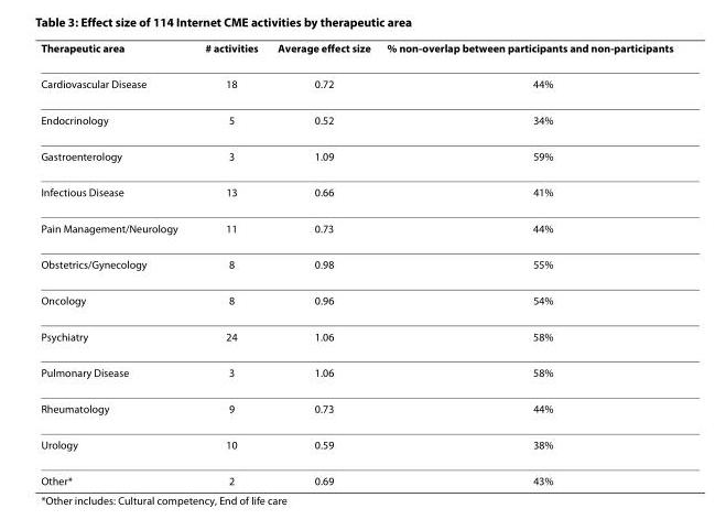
<table><thead><tr><td>Therapeutic area</td><td># activities</td><td>Average effect size</td><td>% non-overlap between participants and non-participants</td></tr></thead><tbody><tr><td>Cardiovascular Disease</td><td>18</td><td>0.72</td><td>44%</td></tr><tr><td>Endocrinology</td><td>5</td><td>0.52</td><td>34%</td></tr><tr><td>Gastroenterology</td><td>3</td><td>1.09</td><td>59%</td></tr><tr><td>Infectious Disease</td><td>13</td><td>0.66</td><td>41%</td></tr><tr><td>Pain Management/Neurology</td><td>11</td><td>0.73</td><td>44%</td></tr><tr><td>Obstetrics/Gynecology</td><td>8</td><td>0.98</td><td>55%</td></tr><tr><td>Oncology</td><td>8</td><td>0.96</td><td>54%</td></tr><tr><td>Psychiatry</td><td>24</td><td>1.06</td><td>58%</td></tr><tr><td>Pulmonary Disease</td><td>3</td><td>1.06</td><td>58%</td></tr><tr><td>Rheumatology</td><td>9</td><td>0.73</td><td>44%</td></tr><tr><td>Urology</td><td>10</td><td>0.59</td><td>38%</td></tr><tr><td>Other*</td><td>2</td><td>0.69</td><td>43%</td></tr></tbody></table>